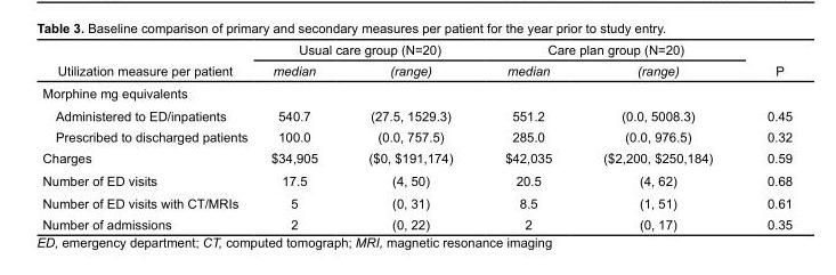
<table><thead><tr><td rowspan="2">Utilization measure per patient</td><td colspan="2">Usual care group (N=20)</td><td colspan="2">Care plan group (N=20)</td><td rowspan="2">P</td></tr><tr><td>median</td><td>(range)</td><td>median</td><td>(range)</td></tr></thead><tbody><tr><td colspan="6">Morphine mg equivalents</td></tr><tr><td>Administered to ED/inpatients</td><td>540.7</td><td>(27.5, 1529.3)</td><td>551.2</td><td>(0.0, 5008.3)</td><td>0.45</td></tr><tr><td>Prescribed to discharged patients</td><td>100.0</td><td>(0.0, 757.5)</td><td>285.0</td><td>(0.0, 976.5)</td><td>0.32</td></tr><tr><td>Charges</td><td>$34,905</td><td>($0, $191,174)</td><td>$42,035</td><td>($2,200, $250,184)</td><td>0.59</td></tr><tr><td>Number of ED visits</td><td>17.5</td><td>(4, 50)</td><td>20.5</td><td>(4, 62)</td><td>0.68</td></tr><tr><td>Number of ED visits with CT/MRIs</td><td>5</td><td>(0, 31)</td><td>8.5</td><td>(1, 51)</td><td>0.61</td></tr><tr><td>Number of admissions</td><td>2</td><td>(0, 22)</td><td>2</td><td>(0, 17)</td><td>0.35</td></tr></tbody></table>